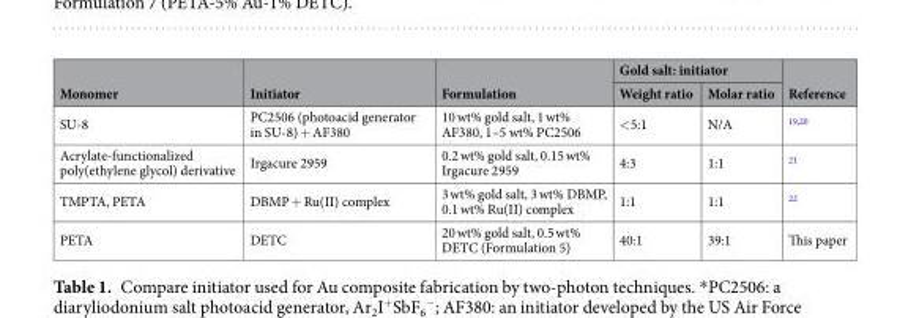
<table><thead><tr><td rowspan="2">Monomer</td><td rowspan="2">Initiator</td><td rowspan="2">Formulation</td><td colspan="2">Gold salt: initiator</td><td rowspan="2">Reference</td></tr><tr><td>Weight ratio</td><td>Molar ratio</td></tr></thead><tbody><tr><td>SU-8</td><td>PC2506 (photoacid generator in SU-8) + AF380</td><td>10 wt% gold salt, 1 wt% AF380, 1–5 wt% PC2506</td><td>&lt;5:1</td><td>N/A</td><td><sup>19,20</sup></td></tr><tr><td>Acrylate-functionalized poly(ethylene glycol) derivative</td><td>Irgacure 2959</td><td>0.2 wt% gold salt, 0.15 wt% Irgacure 2959</td><td>4:3</td><td>1:1</td><td><sup>21</sup></td></tr><tr><td>TMPTA, PETA</td><td>DBMP + Ru(II) complex</td><td>3 wt% gold salt, 3 wt% DBMP, 0.1 wt% Ru(II) complex</td><td>1:1</td><td>1:1</td><td><sup>22</sup></td></tr><tr><td>PETA</td><td>DETC</td><td>20 wt% gold salt, 0.5 wt% DETC (Formulation 5)</td><td>40:1</td><td>39:1</td><td>This paper</td></tr></tbody></table>